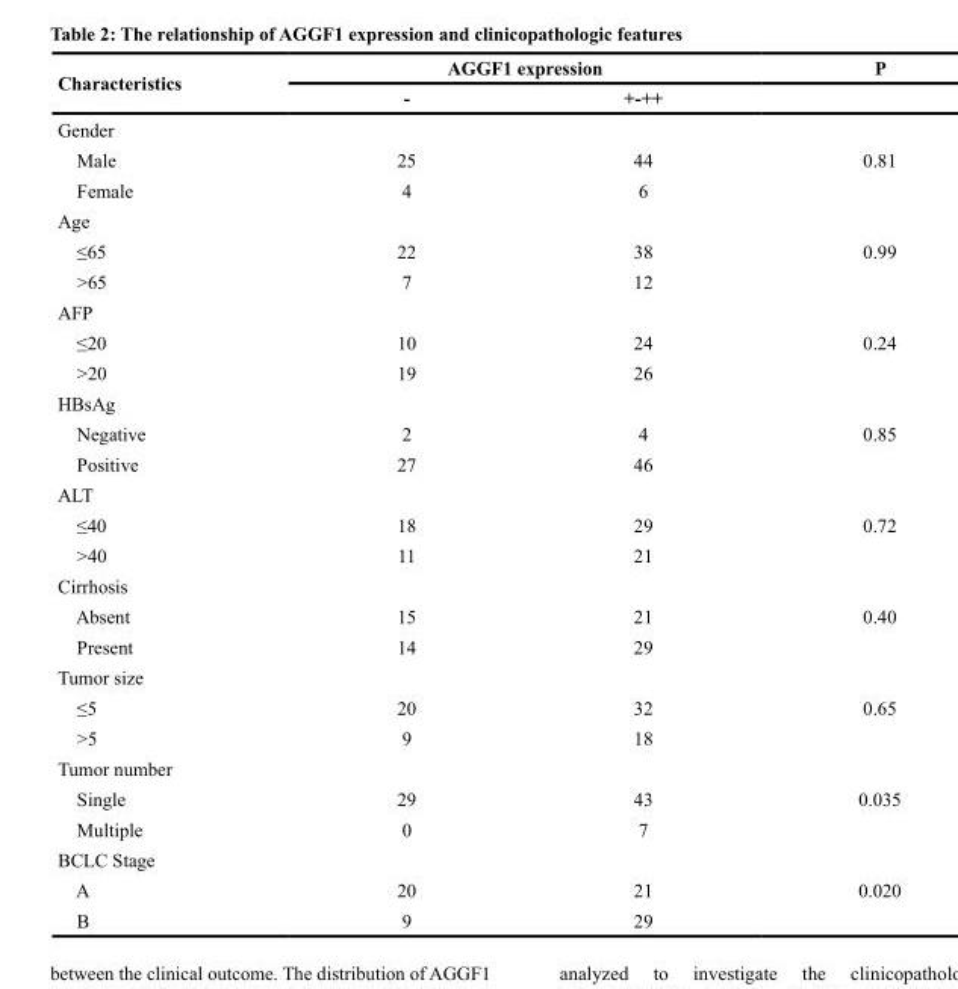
<table><thead><tr><td rowspan="2">Characteristics</td><td colspan="2">AGGF1 expression</td><td rowspan="2">P</td></tr><tr><td>-</td><td>+-++</td></tr></thead><tbody><tr><td colspan="4">Gender</td></tr><tr><td>Male</td><td>25</td><td>44</td><td>0.81</td></tr><tr><td>Female</td><td>4</td><td>6</td><td></td></tr><tr><td colspan="4">Age</td></tr><tr><td>≤65</td><td>22</td><td>38</td><td>0.99</td></tr><tr><td>&gt;65</td><td>7</td><td>12</td><td></td></tr><tr><td colspan="4">AFP</td></tr><tr><td>≤20</td><td>10</td><td>24</td><td>0.24</td></tr><tr><td>&gt;20</td><td>19</td><td>26</td><td></td></tr><tr><td colspan="4">HBsAg</td></tr><tr><td>Negative</td><td>2</td><td>4</td><td>0.85</td></tr><tr><td>Positive</td><td>27</td><td>46</td><td></td></tr><tr><td colspan="4">ALT</td></tr><tr><td>≤40</td><td>18</td><td>29</td><td>0.72</td></tr><tr><td>&gt;40</td><td>11</td><td>21</td><td></td></tr><tr><td colspan="4">Cirrhosis</td></tr><tr><td>Absent</td><td>15</td><td>21</td><td>0.40</td></tr><tr><td>Present</td><td>14</td><td>29</td><td></td></tr><tr><td colspan="4">Tumor size</td></tr><tr><td>≤5</td><td>20</td><td>32</td><td>0.65</td></tr><tr><td>&gt;5</td><td>9</td><td>18</td><td></td></tr><tr><td colspan="4">Tumor number</td></tr><tr><td>Single</td><td>29</td><td>43</td><td>0.035</td></tr><tr><td>Multiple</td><td>0</td><td>7</td><td></td></tr><tr><td colspan="4">BCLC Stage</td></tr><tr><td>A</td><td>20</td><td>21</td><td>0.020</td></tr><tr><td>B</td><td>9</td><td>29</td><td></td></tr></tbody></table>